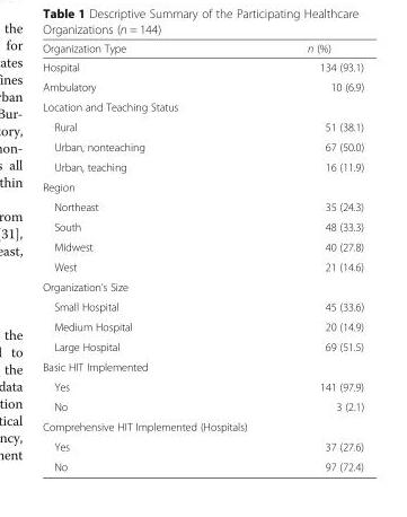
<table><thead><tr><td>Organization Type</td><td>n (%)</td></tr></thead><tbody><tr><td>Hospital</td><td>134 (93.1)</td></tr><tr><td>Ambulatory</td><td>10 (6.9)</td></tr><tr><td colspan="2">Location and Teaching Status</td></tr><tr><td>Rural</td><td>51 (38.1)</td></tr><tr><td>Urban, nonteaching</td><td>67 (50.0)</td></tr><tr><td>Urban, teaching</td><td>16 (11.9)</td></tr><tr><td colspan="2">Region</td></tr><tr><td>Northeast</td><td>35 (24.3)</td></tr><tr><td>South</td><td>48 (33.3)</td></tr><tr><td>Midwest</td><td>40 (27.8)</td></tr><tr><td>West</td><td>21 (14.6)</td></tr><tr><td colspan="2">Organization’s Size</td></tr><tr><td>Small Hospital</td><td>45 (33.6)</td></tr><tr><td>Medium Hospital</td><td>20 (14.9)</td></tr><tr><td>Large Hospital</td><td>69 (51.5)</td></tr><tr><td colspan="2">Basic HIT Implemented</td></tr><tr><td>Yes</td><td>141 (97.9)</td></tr><tr><td>No</td><td>3 (2.1)</td></tr><tr><td colspan="2">Comprehensive HIT Implemented (Hospitals)</td></tr><tr><td>Yes</td><td>37 (27.6)</td></tr><tr><td>No</td><td>97 (72.4)</td></tr></tbody></table>